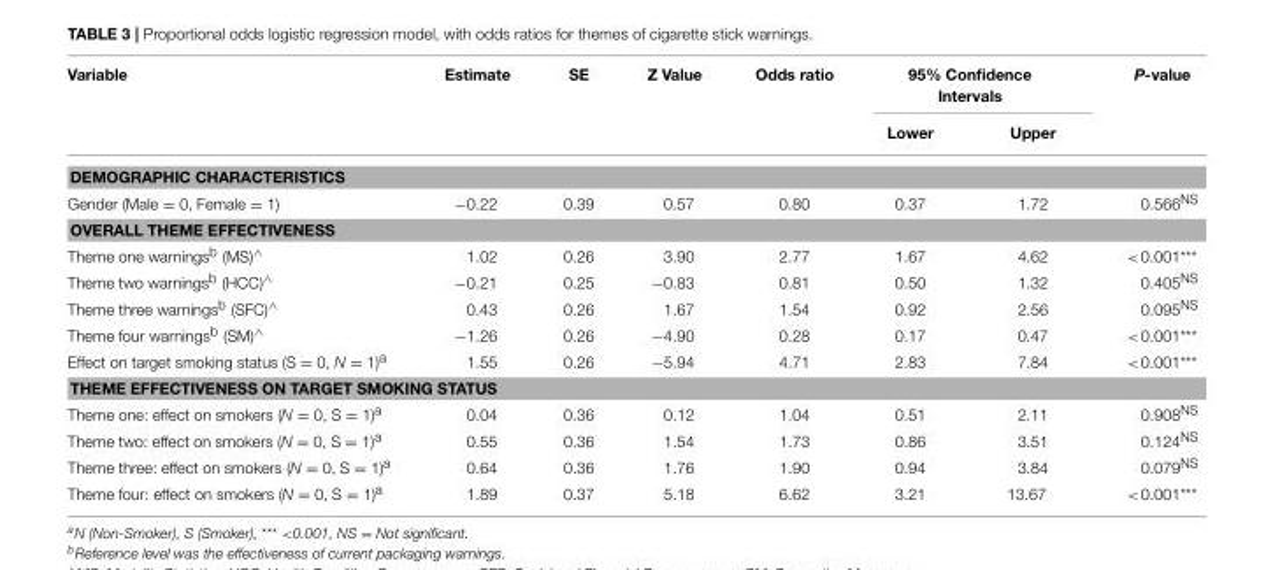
<table><thead><tr><td rowspan="2">Variable</td><td rowspan="2">Estimate</td><td rowspan="2">SE</td><td rowspan="2">Z Value</td><td rowspan="2">Odds ratio</td><td colspan="2">95% Confidence Intervals</td><td rowspan="2">P-value</td></tr><tr><td>Lower</td><td>Upper</td></tr></thead><tbody><tr><td colspan="8">DEMOGRAPHIC CHARACTERISTICS</td></tr><tr><td>Gender (Male = 0, Female = 1)</td><td>−0.22</td><td>0.39</td><td>0.57</td><td>0.80</td><td>0.37</td><td>1.72</td><td>0.566<sup>NS</sup></td></tr><tr><td colspan="8">OVERALL THEME EFFECTIVENESS</td></tr><tr><td>Theme one warnings<sup>b</sup> (MS)<sup>∧</sup></td><td>1.02</td><td>0.26</td><td>3.90</td><td>2.77</td><td>1.67</td><td>4.62</td><td>&lt;0.001***</td></tr><tr><td>Theme two warnings<sup>b</sup> (HCC)<sup>∧</sup></td><td>−0.21</td><td>0.25</td><td>−0.83</td><td>0.81</td><td>0.50</td><td>1.32</td><td>0.405<sup>NS</sup></td></tr><tr><td>Theme three warnings<sup>b</sup> (SFC)<sup>∧</sup></td><td>0.43</td><td>0.26</td><td>1.67</td><td>1.54</td><td>0.92</td><td>2.56</td><td>0.095<sup>NS</sup></td></tr><tr><td>Theme four warnings<sup>b</sup> (SM)<sup>∧</sup></td><td>−1.26</td><td>0.26</td><td>−4.90</td><td>0.28</td><td>0.17</td><td>0.47</td><td>&lt;0.001***</td></tr><tr><td>Effect on target smoking status (S = 0, N = 1)<sup>a</sup></td><td>1.55</td><td>0.26</td><td>−5.94</td><td>4.71</td><td>2.83</td><td>7.84</td><td>&lt;0.001***</td></tr><tr><td colspan="8">THEME EFFECTIVENESS ON TARGET SMOKING STATUS</td></tr><tr><td>Theme one: effect on smokers (N = 0, S = 1)<sup>a</sup></td><td>0.04</td><td>0.36</td><td>0.12</td><td>1.04</td><td>0.51</td><td>2.11</td><td>0.908<sup>NS</sup></td></tr><tr><td>Theme two: effect on smokers (N = 0, S = 1)<sup>a</sup></td><td>0.55</td><td>0.36</td><td>1.54</td><td>1.73</td><td>0.86</td><td>3.51</td><td>0.124<sup>NS</sup></td></tr><tr><td>Theme three: effect on smokers (N = 0, S = 1)<sup>a</sup></td><td>0.64</td><td>0.36</td><td>1.76</td><td>1.90</td><td>0.94</td><td>3.84</td><td>0.079<sup>NS</sup></td></tr><tr><td>Theme four: effect on smokers (N = 0, S = 1)<sup>a</sup></td><td>1.89</td><td>0.37</td><td>5.18</td><td>6.62</td><td>3.21</td><td>13.67</td><td>&lt;0.001***</td></tr></tbody></table>